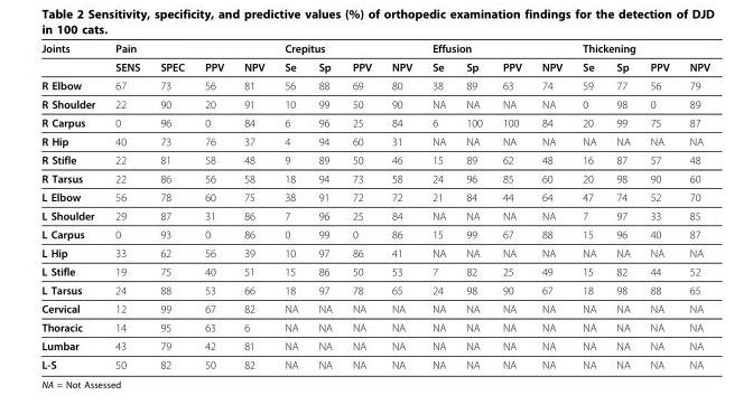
<table><thead><tr><td rowspan="2">Joints</td><td colspan="4">Pain</td><td colspan="4">Crepitus</td><td colspan="4">Effusion</td><td colspan="4">Thickening</td></tr><tr><td>SENS</td><td>SPEC</td><td>PPV</td><td>NPV</td><td>Se</td><td>Sp</td><td>PPV</td><td>NPV</td><td>Se</td><td>Sp</td><td>PPV</td><td>NPV</td><td>Se</td><td>Sp</td><td>PPV</td><td>NPV</td></tr></thead><tbody><tr><td>R Elbow</td><td>67</td><td>73</td><td>56</td><td>81</td><td>56</td><td>88</td><td>69</td><td>80</td><td>38</td><td>89</td><td>63</td><td>74</td><td>59</td><td>77</td><td>56</td><td>79</td></tr><tr><td>R Shoulder</td><td>22</td><td>90</td><td>20</td><td>91</td><td>10</td><td>99</td><td>50</td><td>90</td><td>NA</td><td>NA</td><td>NA</td><td>NA</td><td>0</td><td>98</td><td>0</td><td>89</td></tr><tr><td>R Carpus</td><td>0</td><td>96</td><td>0</td><td>84</td><td>6</td><td>96</td><td>25</td><td>84</td><td>6</td><td>100</td><td>100</td><td>84</td><td>20</td><td>99</td><td>75</td><td>87</td></tr><tr><td>R Hip</td><td>40</td><td>73</td><td>76</td><td>37</td><td>4</td><td>94</td><td>60</td><td>31</td><td>NA</td><td>NA</td><td>NA</td><td>NA</td><td>NA</td><td>NA</td><td>NA</td><td>NA</td></tr><tr><td>R Stifle</td><td>22</td><td>81</td><td>58</td><td>48</td><td>9</td><td>89</td><td>50</td><td>46</td><td>15</td><td>89</td><td>62</td><td>48</td><td>16</td><td>87</td><td>57</td><td>48</td></tr><tr><td>R Tarsus</td><td>22</td><td>86</td><td>56</td><td>58</td><td>18</td><td>94</td><td>73</td><td>58</td><td>24</td><td>96</td><td>85</td><td>60</td><td>20</td><td>98</td><td>90</td><td>60</td></tr><tr><td>L Elbow</td><td>56</td><td>78</td><td>60</td><td>75</td><td>38</td><td>91</td><td>72</td><td>72</td><td>21</td><td>84</td><td>44</td><td>64</td><td>47</td><td>74</td><td>52</td><td>70</td></tr><tr><td>L Shoulder</td><td>29</td><td>87</td><td>31</td><td>86</td><td>7</td><td>96</td><td>25</td><td>84</td><td>NA</td><td>NA</td><td>NA</td><td>NA</td><td>7</td><td>97</td><td>33</td><td>85</td></tr><tr><td>L Carpus</td><td>0</td><td>93</td><td>0</td><td>86</td><td>0</td><td>99</td><td>0</td><td>86</td><td>15</td><td>99</td><td>67</td><td>88</td><td>15</td><td>96</td><td>40</td><td>87</td></tr><tr><td>L Hip</td><td>33</td><td>62</td><td>56</td><td>39</td><td>10</td><td>97</td><td>86</td><td>41</td><td>NA</td><td>NA</td><td>NA</td><td>NA</td><td>NA</td><td>NA</td><td>NA</td><td>NA</td></tr><tr><td>L Stifle</td><td>19</td><td>75</td><td>40</td><td>51</td><td>15</td><td>86</td><td>50</td><td>53</td><td>7</td><td>82</td><td>25</td><td>49</td><td>15</td><td>82</td><td>44</td><td>52</td></tr><tr><td>L Tarsus</td><td>24</td><td>88</td><td>53</td><td>66</td><td>18</td><td>97</td><td>78</td><td>65</td><td>24</td><td>98</td><td>90</td><td>67</td><td>18</td><td>98</td><td>88</td><td>65</td></tr><tr><td>Cervical</td><td>12</td><td>99</td><td>67</td><td>82</td><td>NA</td><td>NA</td><td>NA</td><td>NA</td><td>NA</td><td>NA</td><td>NA</td><td>NA</td><td>NA</td><td>NA</td><td>NA</td><td>NA</td></tr><tr><td>Thoracic</td><td>14</td><td>95</td><td>63</td><td>6</td><td>NA</td><td>NA</td><td>NA</td><td>NA</td><td>NA</td><td>NA</td><td>NA</td><td>NA</td><td>NA</td><td>NA</td><td>NA</td><td>NA</td></tr><tr><td>Lumbar</td><td>43</td><td>79</td><td>42</td><td>81</td><td>NA</td><td>NA</td><td>NA</td><td>NA</td><td>NA</td><td>NA</td><td>NA</td><td>NA</td><td>NA</td><td>NA</td><td>NA</td><td>NA</td></tr><tr><td>L-S</td><td>50</td><td>82</td><td>50</td><td>82</td><td>NA</td><td>NA</td><td>NA</td><td>NA</td><td>NA</td><td>NA</td><td>NA</td><td>NA</td><td>NA</td><td>NA</td><td>NA</td><td>NA</td></tr></tbody></table>